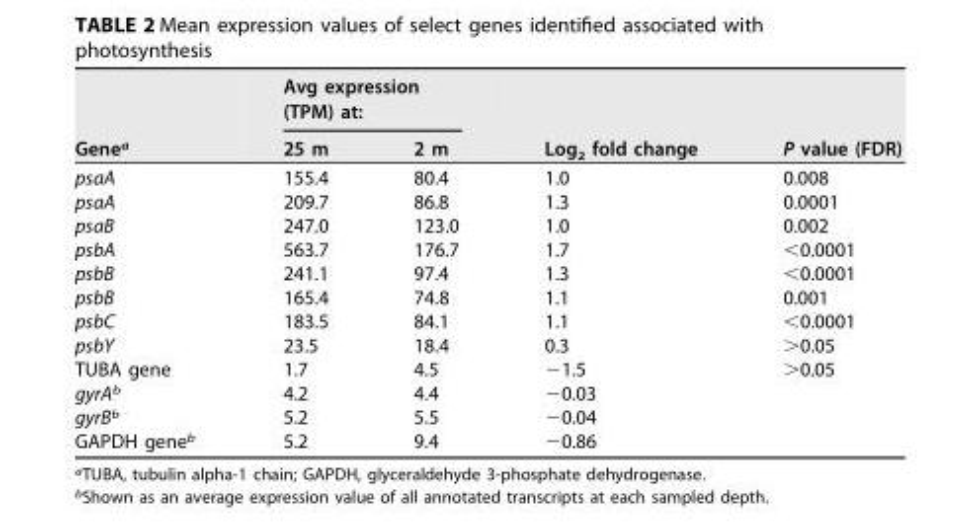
<table><thead><tr><td rowspan="2">Gene<sup>a</sup></td><td colspan="2">Avg expression (TPM) at:</td><td rowspan="2">Log<sub>2</sub> fold change</td><td rowspan="2">P value (FDR)</td></tr><tr><td>25 m</td><td>2 m</td></tr></thead><tbody><tr><td>psaA</td><td>155.4</td><td>80.4</td><td>1.0</td><td>0.008</td></tr><tr><td>psaA</td><td>209.7</td><td>86.8</td><td>1.3</td><td>0.0001</td></tr><tr><td>psaB</td><td>247.0</td><td>123.0</td><td>1.0</td><td>0.002</td></tr><tr><td>psbA</td><td>563.7</td><td>176.7</td><td>1.7</td><td>&lt;0.0001</td></tr><tr><td>psbB</td><td>241.1</td><td>97.4</td><td>1.3</td><td>&lt;0.0001</td></tr><tr><td>psbB</td><td>165.4</td><td>74.8</td><td>1.1</td><td>0.001</td></tr><tr><td>psbC</td><td>183.5</td><td>84.1</td><td>1.1</td><td>&lt;0.0001</td></tr><tr><td>psbY</td><td>23.5</td><td>18.4</td><td>0.3</td><td>&gt;0.05</td></tr><tr><td>TUBA gene</td><td>1.7</td><td>4.5</td><td>−1.5</td><td>&gt;0.05</td></tr><tr><td>gyrA<sup>b</sup></td><td>4.2</td><td>4.4</td><td>−0.03</td><td></td></tr><tr><td>gyrB<sup>b</sup></td><td>5.2</td><td>5.5</td><td>−0.04</td><td></td></tr><tr><td>GAPDH gene<sup>b</sup></td><td>5.2</td><td>9.4</td><td>−0.86</td><td></td></tr></tbody></table>